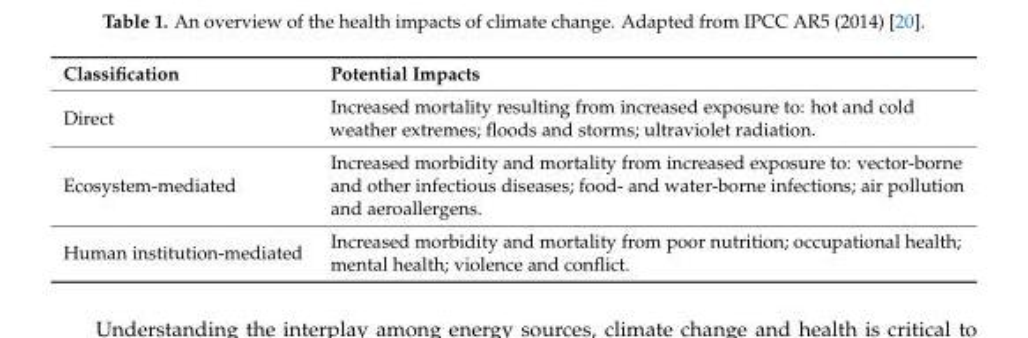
<table><thead><tr><td>Classification</td><td>Potential Impacts</td></tr></thead><tbody><tr><td>Direct</td><td>Increased mortality resulting from increased exposure to: hot and cold weather extremes; floods and storms; ultraviolet radiation.</td></tr><tr><td>Ecosystem-mediated</td><td>Increased morbidity and mortality from increased exposure to: vector-borne and other infectious diseases; food- and water-borne infections; air pollution and aeroallergens.</td></tr><tr><td>Human institution-mediated</td><td>Increased morbidity and mortality from poor nutrition; occupational health; mental health; violence and conflict.</td></tr></tbody></table>